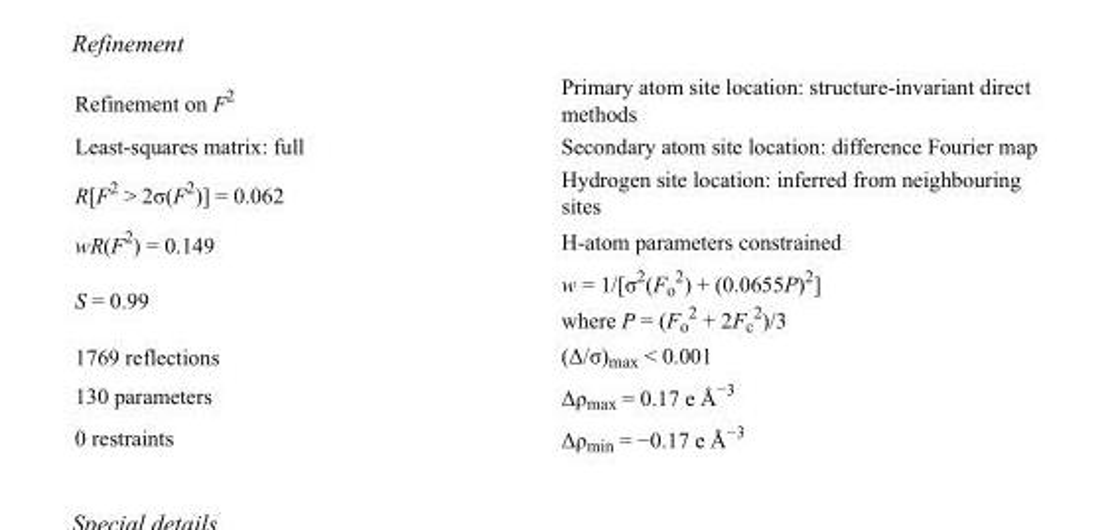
<table><tbody><tr><td>Refinement on F<sup>2</sup></td><td>Primary atom site location: structure-invariant direct methods</td></tr><tr><td>Least-squares matrix: full</td><td>Secondary atom site location: difference Fourier map</td></tr><tr><td>R[F<sup>2</sup> &gt; 2σ(F<sup>2</sup>)] = 0.062</td><td>Hydrogen site location: inferred from neighbouring sites</td></tr><tr><td>wR(F<sup>2</sup>) = 0.149</td><td>H-atom parameters constrained</td></tr><tr><td>S = 0.99</td><td>w = 1/[σ<sup>2</sup>(F<sub>o</sub> <sup>2</sup>) + (0.0655P)<sup>2</sup>] where P = (F<sub>o</sub> <sup>2</sup> + 2F<sub>c</sub> <sup>2</sup>)/3</td></tr><tr><td>1769 reflections</td><td>(Δ/σ)<sub>max</sub> &lt; 0.001</td></tr><tr><td>130 parameters</td><td>Δρ<sub>max</sub> = 0.17 e Å<sup>−3</sup></td></tr><tr><td>0 restraints</td><td>Δρmin = −0.17 e Å−3</td></tr></tbody></table>